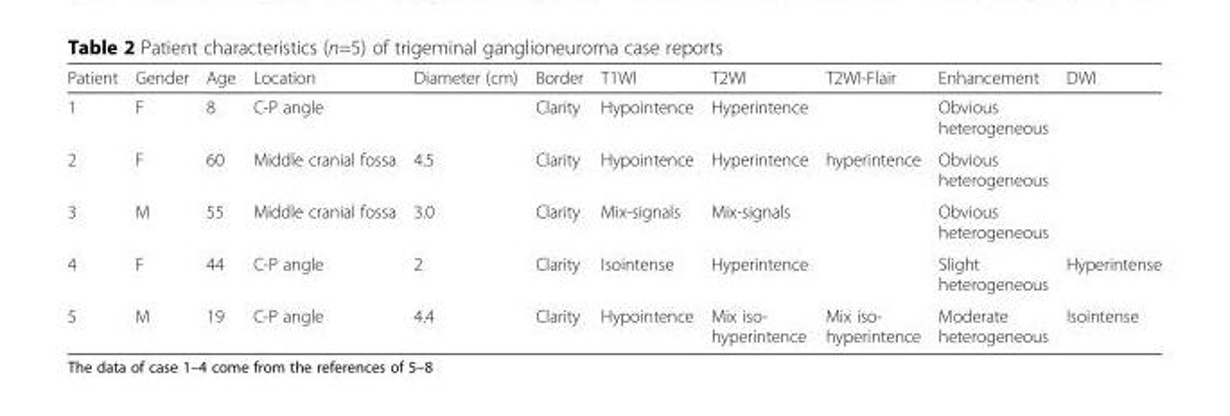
<table><thead><tr><td>Patient</td><td>Gender</td><td>Age</td><td>Location</td><td>Diameter (cm)</td><td>Border</td><td>T1WI</td><td>T2WI</td><td>T2WI-Flair</td><td>Enhancement</td><td>DWI</td></tr></thead><tbody><tr><td>1</td><td>F</td><td>8</td><td>C-P angle</td><td></td><td>Clarity</td><td>Hypointence</td><td>Hyperintence</td><td></td><td>Obvious heterogeneous</td><td></td></tr><tr><td>2</td><td>F</td><td>60</td><td>Middle cranial fossa</td><td>4.5</td><td>Clarity</td><td>Hypointence</td><td>Hyperintence</td><td>hyperintence</td><td>Obvious heterogeneous</td><td></td></tr><tr><td>3</td><td>M</td><td>55</td><td>Middle cranial fossa</td><td>3.0</td><td>Clarity</td><td>Mix-signals</td><td>Mix-signals</td><td></td><td>Obvious heterogeneous</td><td></td></tr><tr><td>4</td><td>F</td><td>44</td><td>C-P angle</td><td>2</td><td>Clarity</td><td>Isointense</td><td>Hyperintence</td><td></td><td>Slight heterogeneous</td><td>Hyperintense</td></tr><tr><td>5</td><td>M</td><td>19</td><td>C-P angle</td><td>4.4</td><td>Clarity</td><td>Hypointence</td><td>Mix iso- hyperintence</td><td>Mix iso- hyperintence</td><td>Moderate heterogeneous</td><td>Isointense</td></tr></tbody></table>